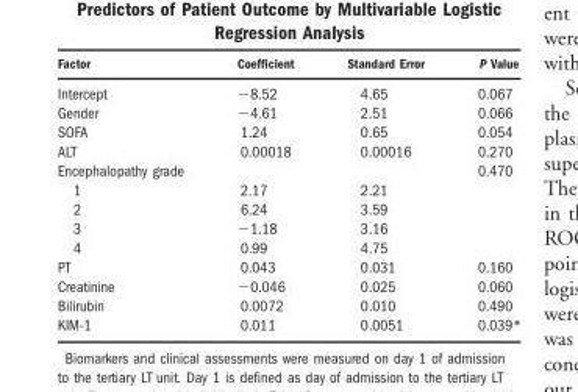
<table><thead><tr><td>Factor</td><td>Coefficient</td><td>Standard Error</td><td>P Value</td></tr></thead><tbody><tr><td>Intercept</td><td>−8.52</td><td>4.65</td><td>0.067</td></tr><tr><td>Gender</td><td>−4.61</td><td>2.51</td><td>0.066</td></tr><tr><td>SOFA</td><td>1.24</td><td>0.65</td><td>0.054</td></tr><tr><td>ALT</td><td>0.00018</td><td>0.00016</td><td>0.270</td></tr><tr><td>Encephalopathy grade</td><td></td><td></td><td>0.470</td></tr><tr><td>1</td><td>2.17</td><td>2.21</td><td></td></tr><tr><td>2</td><td>6.24</td><td>3.59</td><td></td></tr><tr><td>3</td><td>−1.18</td><td>3.16</td><td></td></tr><tr><td>4</td><td>0.99</td><td>4.75</td><td></td></tr><tr><td>PT</td><td>0.043</td><td>0.031</td><td>0.160</td></tr><tr><td>Creatinine</td><td>−0.046</td><td>0.025</td><td>0.060</td></tr><tr><td>Bilirubin</td><td>0.0072</td><td>0.010</td><td>0.490</td></tr><tr><td>KIM-1</td><td>0.011</td><td>0.0051</td><td>0.039*</td></tr></tbody></table>